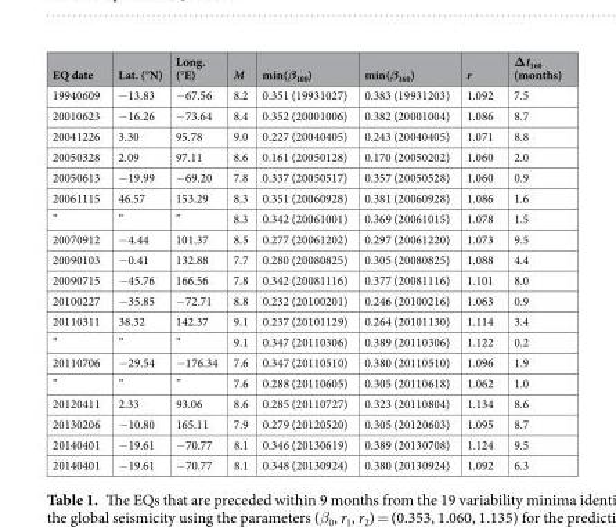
<table><thead><tr><td>EQ date</td><td>Lat. (°N)</td><td>Long. (°E)</td><td>M</td><td>min(β<sub>100</sub>)</td><td>min(β<sub>160</sub>)</td><td>r</td><td>Δt<sub>160</sub> (months)</td></tr></thead><tbody><tr><td>19940609</td><td>−13.83</td><td>−67.56</td><td>8.2</td><td>0.351 (19931027)</td><td>0.383 (19931203)</td><td>1.092</td><td>7.5</td></tr><tr><td>20010623</td><td>−16.26</td><td>−73.64</td><td>8.4</td><td>0.352 (20001006)</td><td>0.382 (20001004)</td><td>1.086</td><td>8.7</td></tr><tr><td>20041226</td><td>3.30</td><td>95.78</td><td>9.0</td><td>0.227 (20040405)</td><td>0.243 (20040405)</td><td>1.071</td><td>8.8</td></tr><tr><td>20050328</td><td>2.09</td><td>97.11</td><td>8.6</td><td>0.161 (20050128)</td><td>0.170 (20050202)</td><td>1.060</td><td>2.0</td></tr><tr><td>20050613</td><td>−19.99</td><td>−69.20</td><td>7.8</td><td>0.337 (20050517)</td><td>0.357 (20050528)</td><td>1.060</td><td>0.9</td></tr><tr><td>20061115</td><td>46.57</td><td>153.29</td><td>8.3</td><td>0.351 (20060928)</td><td>0.381 (20060928)</td><td>1.086</td><td>1.6</td></tr><tr><td>”</td><td>”</td><td>”</td><td>8.3</td><td>0.342 (20061001)</td><td>0.369 (20061015)</td><td>1.078</td><td>1.5</td></tr><tr><td>20070912</td><td>−4.44</td><td>101.37</td><td>8.5</td><td>0.277 (20061202)</td><td>0.297 (20061220)</td><td>1.073</td><td>9.5</td></tr><tr><td>20090103</td><td>−0.41</td><td>132.88</td><td>7.7</td><td>0.280 (20080825)</td><td>0.305 (20080825)</td><td>1.088</td><td>4.4</td></tr><tr><td>20090715</td><td>−45.76</td><td>166.56</td><td>7.8</td><td>0.342 (20081116)</td><td>0.377 (20081116)</td><td>1.101</td><td>8.0</td></tr><tr><td>20100227</td><td>−35.85</td><td>−72.71</td><td>8.8</td><td>0.232 (20100201)</td><td>0.246 (20100216)</td><td>1.063</td><td>0.9</td></tr><tr><td>20110311</td><td>38.32</td><td>142.37</td><td>9.1</td><td>0.237 (20101129)</td><td>0.264 (20101130)</td><td>1.114</td><td>3.4</td></tr><tr><td>”</td><td>”</td><td>”</td><td>9.1</td><td>0.347 (20110306)</td><td>0.389 (20110306)</td><td>1.122</td><td>0.2</td></tr><tr><td>20110706</td><td>−29.54</td><td>−176.34</td><td>7.6</td><td>0.347 (20110510)</td><td>0.380 (20110510)</td><td>1.096</td><td>1.9</td></tr><tr><td>”</td><td>”</td><td>”</td><td>7.6</td><td>0.288 (20110605)</td><td>0.305 (20110618)</td><td>1.062</td><td>1.0</td></tr><tr><td>20120411</td><td>2.33</td><td>93.06</td><td>8.6</td><td>0.285 (20110727)</td><td>0.323 (20110804)</td><td>1.134</td><td>8.6</td></tr><tr><td>20130206</td><td>−10.80</td><td>165.11</td><td>7.9</td><td>0.279 (20120520)</td><td>0.305 (20120603)</td><td>1.095</td><td>8.7</td></tr><tr><td>20140401</td><td>−19.61</td><td>−70.77</td><td>8.1</td><td>0.346 (20130619)</td><td>0.389 (20130708)</td><td>1.124</td><td>9.5</td></tr><tr><td>20140401</td><td>−19.61</td><td>−70.77</td><td>8.1</td><td>0.348 (20130924)</td><td>0.380 (20130924)</td><td>1.092</td><td>6.3</td></tr></tbody></table>